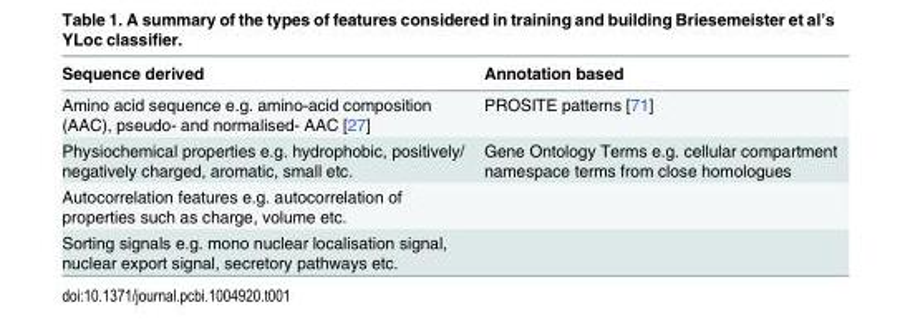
<table><thead><tr><td>Sequence derived</td><td>Annotation based</td></tr></thead><tbody><tr><td>Amino acid sequence e.g. amino-acid composition (AAC), pseudo- and normalised- AAC [27]</td><td>PROSITE patterns [71]</td></tr><tr><td>Physiochemical properties e.g. hydrophobic, positively/ negatively charged, aromatic, small etc.</td><td>Gene Ontology Terms e.g. cellular compartment namespace terms from close homologues</td></tr><tr><td colspan="2">Autocorrelation features e.g. autocorrelation of properties such as charge, volume etc.</td></tr><tr><td>Sorting signals e.g. mono nuclear localisation signal, nuclear export signal, secretory pathways etc.</td><td></td></tr></tbody></table>